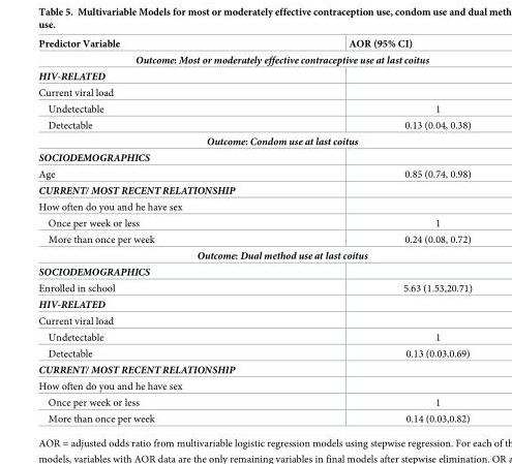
<table><thead><tr><td>Predictor Variable</td><td>AOR (95% CI)</td></tr></thead><tbody><tr><td colspan="2">Outcome: Most or moderately effective contraceptive use at last coitus</td></tr><tr><td colspan="2">HIV-RELATED</td></tr><tr><td colspan="2">Current viral load</td></tr><tr><td>Undetectable</td><td>1</td></tr><tr><td>Detectable</td><td>0.13 (0.04, 0.38)</td></tr><tr><td colspan="2">Outcome: Condom use at last coitus</td></tr><tr><td colspan="2">SOCIODEMOGRAPHICS</td></tr><tr><td>Age</td><td>0.85 (0.74, 0.98)</td></tr><tr><td colspan="2">CURRENT/ MOST RECENT RELATIONSHIP</td></tr><tr><td colspan="2">How often do you and he have sex</td></tr><tr><td>Once per week or less</td><td>1</td></tr><tr><td>More than once per week</td><td>0.24 (0.08, 0.72)</td></tr><tr><td colspan="2">Outcome: Dual method use at last coitus</td></tr><tr><td colspan="2">SOCIODEMOGRAPHICS</td></tr><tr><td>Enrolled in school</td><td>5.63 (1.53,20.71)</td></tr><tr><td colspan="2">HIV-RELATED</td></tr><tr><td colspan="2">Current viral load</td></tr><tr><td>Undetectable</td><td>1</td></tr><tr><td>Detectable</td><td>0.13 (0.03,0.69)</td></tr><tr><td colspan="2">CURRENT/ MOST RECENT RELATIONSHIP</td></tr><tr><td colspan="2">How often do you and he have sex</td></tr><tr><td>Once per week or less</td><td>1</td></tr><tr><td>More than once per week</td><td>0.14 (0.03,0.82)</td></tr></tbody></table>